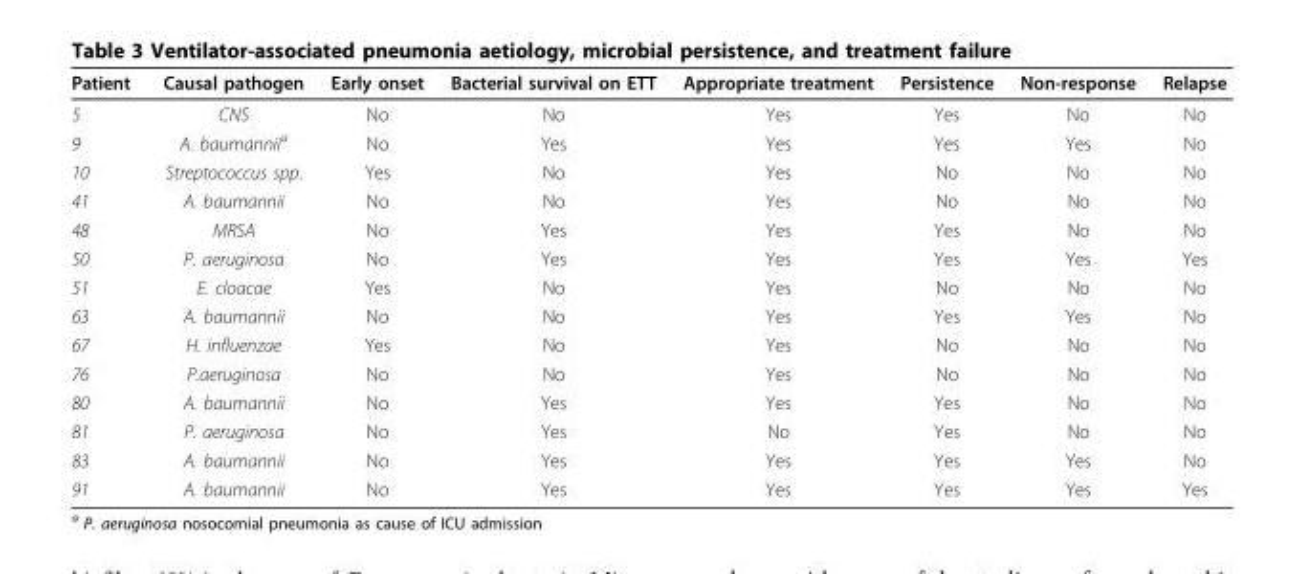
<table><thead><tr><td>Patient</td><td>Causal pathogen</td><td>Early onset</td><td>Bacterial survival on ETT</td><td>Appropriate treatment</td><td>Persistence</td><td>Non-response</td><td>Relapse</td></tr></thead><tbody><tr><td>5</td><td>CNS</td><td>No</td><td>No</td><td>Yes</td><td>Yes</td><td>No</td><td>No</td></tr><tr><td>9</td><td>A. baumannii<sup>a</sup></td><td>No</td><td>Yes</td><td>Yes</td><td>Yes</td><td>Yes</td><td>No</td></tr><tr><td>10</td><td>Streptococcus spp.</td><td>Yes</td><td>No</td><td>Yes</td><td>No</td><td>No</td><td>No</td></tr><tr><td>41</td><td>A. baumannii</td><td>No</td><td>No</td><td>Yes</td><td>No</td><td>No</td><td>No</td></tr><tr><td>48</td><td>MRSA</td><td>No</td><td>Yes</td><td>Yes</td><td>Yes</td><td>No</td><td>No</td></tr><tr><td>50</td><td>P. aeruginosa</td><td>No</td><td>Yes</td><td>Yes</td><td>Yes</td><td>Yes</td><td>Yes</td></tr><tr><td>51</td><td>E. cloacae</td><td>Yes</td><td>No</td><td>Yes</td><td>No</td><td>No</td><td>No</td></tr><tr><td>63</td><td>A. baumannii</td><td>No</td><td>No</td><td>Yes</td><td>Yes</td><td>Yes</td><td>No</td></tr><tr><td>67</td><td>H. influenzae</td><td>Yes</td><td>No</td><td>Yes</td><td>No</td><td>No</td><td>No</td></tr><tr><td>76</td><td>P.aeruginosa</td><td>No</td><td>No</td><td>Yes</td><td>No</td><td>No</td><td>No</td></tr><tr><td>80</td><td>A. baumannii</td><td>No</td><td>Yes</td><td>Yes</td><td>Yes</td><td>No</td><td>No</td></tr><tr><td>81</td><td>P. aeruginosa</td><td>No</td><td>Yes</td><td>No</td><td>Yes</td><td>No</td><td>No</td></tr><tr><td>83</td><td>A. baumannii</td><td>No</td><td>Yes</td><td>Yes</td><td>Yes</td><td>Yes</td><td>No</td></tr><tr><td>91</td><td>A. baumannii</td><td>No</td><td>Yes</td><td>Yes</td><td>Yes</td><td>Yes</td><td>Yes</td></tr></tbody></table>